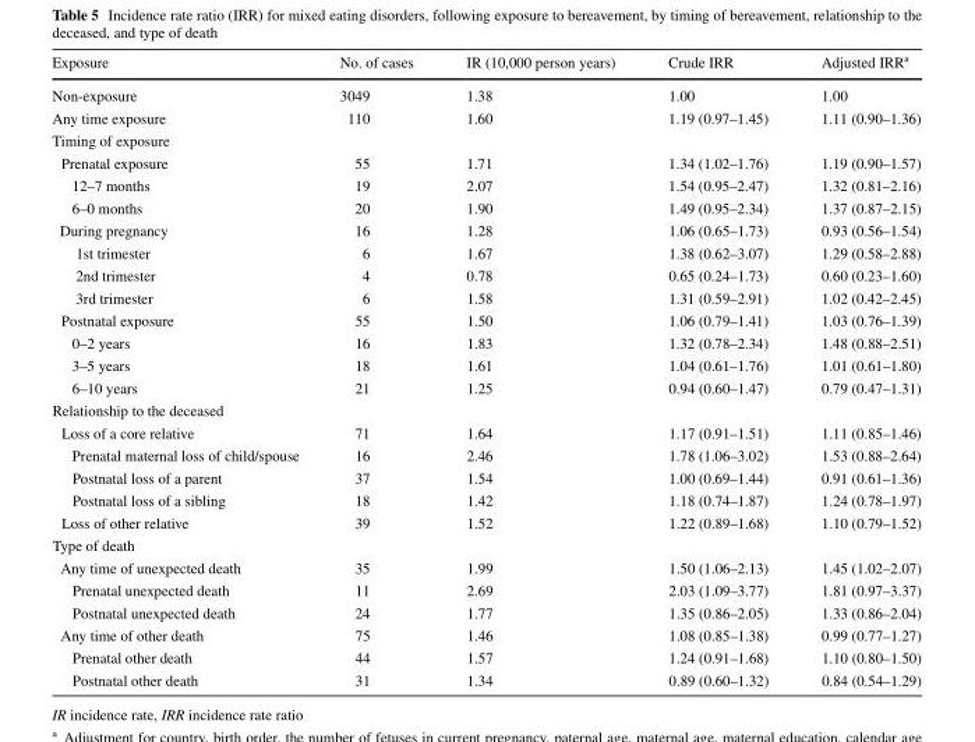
<table><thead><tr><td>Exposure</td><td>No. of cases</td><td>IR (10,000 person years)</td><td>Crude IRR</td><td>Adjusted IRR<sup>a</sup></td></tr></thead><tbody><tr><td>Non-exposure</td><td>3049</td><td>1.38</td><td>1.00</td><td>1.00</td></tr><tr><td>Any time exposure</td><td>110</td><td>1.60</td><td>1.19 (0.97–1.45)</td><td>1.11 (0.90–1.36)</td></tr><tr><td colspan="5">Timing of exposure</td></tr><tr><td>Prenatal exposure</td><td>55</td><td>1.71</td><td>1.34 (1.02–1.76)</td><td>1.19 (0.90–1.57)</td></tr><tr><td>12–7 months</td><td>19</td><td>2.07</td><td>1.54 (0.95–2.47)</td><td>1.32 (0.81–2.16)</td></tr><tr><td>6–0 months</td><td>20</td><td>1.90</td><td>1.49 (0.95–2.34)</td><td>1.37 (0.87–2.15)</td></tr><tr><td>During pregnancy</td><td>16</td><td>1.28</td><td>1.06 (0.65–1.73)</td><td>0.93 (0.56–1.54)</td></tr><tr><td>1st trimester</td><td>6</td><td>1.67</td><td>1.38 (0.62–3.07)</td><td>1.29 (0.58–2.88)</td></tr><tr><td>2nd trimester</td><td>4</td><td>0.78</td><td>0.65 (0.24–1.73)</td><td>0.60 (0.23–1.60)</td></tr><tr><td>3rd trimester</td><td>6</td><td>1.58</td><td>1.31 (0.59–2.91)</td><td>1.02 (0.42–2.45)</td></tr><tr><td>Postnatal exposure</td><td>55</td><td>1.50</td><td>1.06 (0.79–1.41)</td><td>1.03 (0.76–1.39)</td></tr><tr><td>0–2 years</td><td>16</td><td>1.83</td><td>1.32 (0.78–2.34)</td><td>1.48 (0.88–2.51)</td></tr><tr><td>3–5 years</td><td>18</td><td>1.61</td><td>1.04 (0.61–1.76)</td><td>1.01 (0.61–1.80)</td></tr><tr><td>6–10 years</td><td>21</td><td>1.25</td><td>0.94 (0.60–1.47)</td><td>0.79 (0.47–1.31)</td></tr><tr><td colspan="5">Relationship to the deceased</td></tr><tr><td>Loss of a core relative</td><td>71</td><td>1.64</td><td>1.17 (0.91–1.51)</td><td>1.11 (0.85–1.46)</td></tr><tr><td>Prenatal maternal loss of child/spouse</td><td>16</td><td>2.46</td><td>1.78 (1.06–3.02)</td><td>1.53 (0.88–2.64)</td></tr><tr><td>Postnatal loss of a parent</td><td>37</td><td>1.54</td><td>1.00 (0.69–1.44)</td><td>0.91 (0.61–1.36)</td></tr><tr><td>Postnatal loss of a sibling</td><td>18</td><td>1.42</td><td>1.18 (0.74–1.87)</td><td>1.24 (0.78–1.97)</td></tr><tr><td>Loss of other relative</td><td>39</td><td>1.52</td><td>1.22 (0.89–1.68)</td><td>1.10 (0.79–1.52)</td></tr><tr><td colspan="5">Type of death</td></tr><tr><td>Any time of unexpected death</td><td>35</td><td>1.99</td><td>1.50 (1.06–2.13)</td><td>1.45 (1.02–2.07)</td></tr><tr><td>Prenatal unexpected death</td><td>11</td><td>2.69</td><td>2.03 (1.09–3.77)</td><td>1.81 (0.97–3.37)</td></tr><tr><td>Postnatal unexpected death</td><td>24</td><td>1.77</td><td>1.35 (0.86–2.05)</td><td>1.33 (0.86–2.04)</td></tr><tr><td>Any time of other death</td><td>75</td><td>1.46</td><td>1.08 (0.85–1.38)</td><td>0.99 (0.77–1.27)</td></tr><tr><td>Prenatal other death</td><td>44</td><td>1.57</td><td>1.24 (0.91–1.68)</td><td>1.10 (0.80–1.50)</td></tr><tr><td>Postnatal other death</td><td>31</td><td>1.34</td><td>0.89 (0.60–1.32)</td><td>0.84 (0.54–1.29)</td></tr></tbody></table>